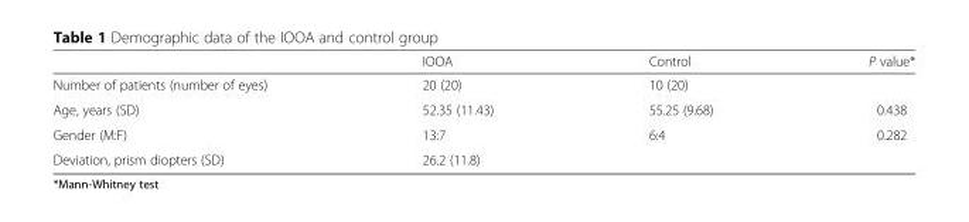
<table><thead><tr><td></td><td>IOOA</td><td>Control</td><td>P value*</td></tr></thead><tbody><tr><td>Number of patients (number of eyes)</td><td>20 (20)</td><td>10 (20)</td><td></td></tr><tr><td>Age, years (SD)</td><td>52.35 (11.43)</td><td>55.25 (9.68)</td><td>0.438</td></tr><tr><td>Gender (M:F)</td><td>13:7</td><td>6:4</td><td>0.282</td></tr><tr><td>Deviation, prism diopters (SD)</td><td>26.2 (11.8)</td><td></td><td></td></tr></tbody></table>